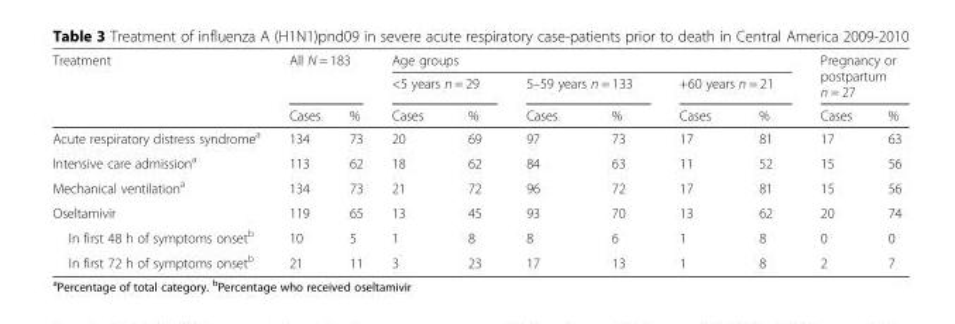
<table><thead><tr><td rowspan="3">Treatment</td><td rowspan="2" colspan="2">All N = 183</td><td colspan="6">Age groups</td><td rowspan="2" colspan="2">Pregnancy or postpartum n = 27</td></tr><tr><td colspan="2">&lt;5 years n = 29</td><td colspan="2">5–59 years n = 133</td><td colspan="2">+60 years n = 21</td></tr><tr><td>Cases</td><td>%</td><td>Cases</td><td>%</td><td>Cases</td><td>%</td><td>Cases</td><td>%</td><td>Cases</td><td>%</td></tr></thead><tbody><tr><td>Acute respiratory distress syndrome<sup>a</sup></td><td>134</td><td>73</td><td>20</td><td>69</td><td>97</td><td>73</td><td>17</td><td>81</td><td>17</td><td>63</td></tr><tr><td>Intensive care admission<sup>a</sup></td><td>113</td><td>62</td><td>18</td><td>62</td><td>84</td><td>63</td><td>11</td><td>52</td><td>15</td><td>56</td></tr><tr><td>Mechanical ventilation<sup>a</sup></td><td>134</td><td>73</td><td>21</td><td>72</td><td>96</td><td>72</td><td>17</td><td>81</td><td>15</td><td>56</td></tr><tr><td>Oseltamivir</td><td>119</td><td>65</td><td>13</td><td>45</td><td>93</td><td>70</td><td>13</td><td>62</td><td>20</td><td>74</td></tr><tr><td>In first 48 h of symptoms onset<sup>b</sup></td><td>10</td><td>5</td><td>1</td><td>8</td><td>8</td><td>6</td><td>1</td><td>8</td><td>0</td><td>0</td></tr><tr><td>In first 72 h of symptoms onset<sup>b</sup></td><td>21</td><td>11</td><td>3</td><td>23</td><td>17</td><td>13</td><td>1</td><td>8</td><td>2</td><td>7</td></tr></tbody></table>